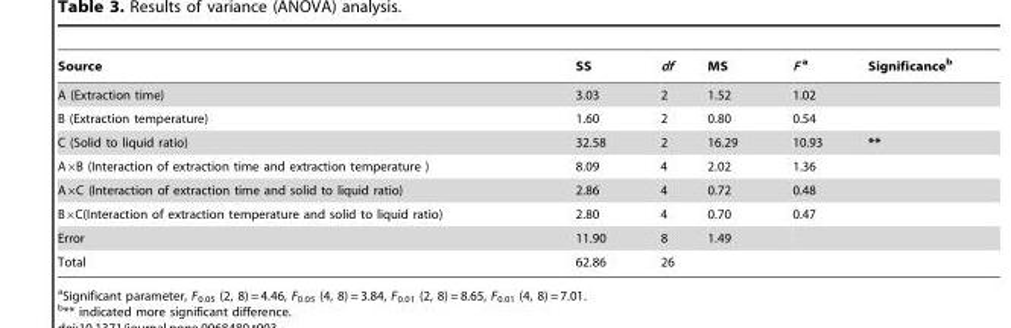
<table><thead><tr><td>Source</td><td>SS</td><td>df</td><td>MS</td><td>F a</td><td>Significance<sup>b</sup></td></tr></thead><tbody><tr><td>A (Extraction time)</td><td>3.03</td><td>2</td><td>1.52</td><td>1.02</td><td></td></tr><tr><td>B (Extraction temperature)</td><td>1.60</td><td>2</td><td>0.80</td><td>0.54</td><td></td></tr><tr><td>C (Solid to liquid ratio)</td><td>32.58</td><td>2</td><td>16.29</td><td>10.93</td><td>**</td></tr><tr><td>A×B (Interaction of extraction time and extraction temperature )</td><td>8.09</td><td>4</td><td>2.02</td><td>1.36</td><td></td></tr><tr><td>A×C (Interaction of extraction time and solid to liquid ratio)</td><td>2.86</td><td>4</td><td>0.72</td><td>0.48</td><td></td></tr><tr><td>B×C(Interaction of extraction temperature and solid to liquid ratio)</td><td>2.80</td><td>4</td><td>0.70</td><td>0.47</td><td></td></tr><tr><td>Error</td><td>11.90</td><td>8</td><td>1.49</td><td></td><td></td></tr><tr><td>Total</td><td>62.86</td><td>26</td><td></td><td></td><td></td></tr></tbody></table>